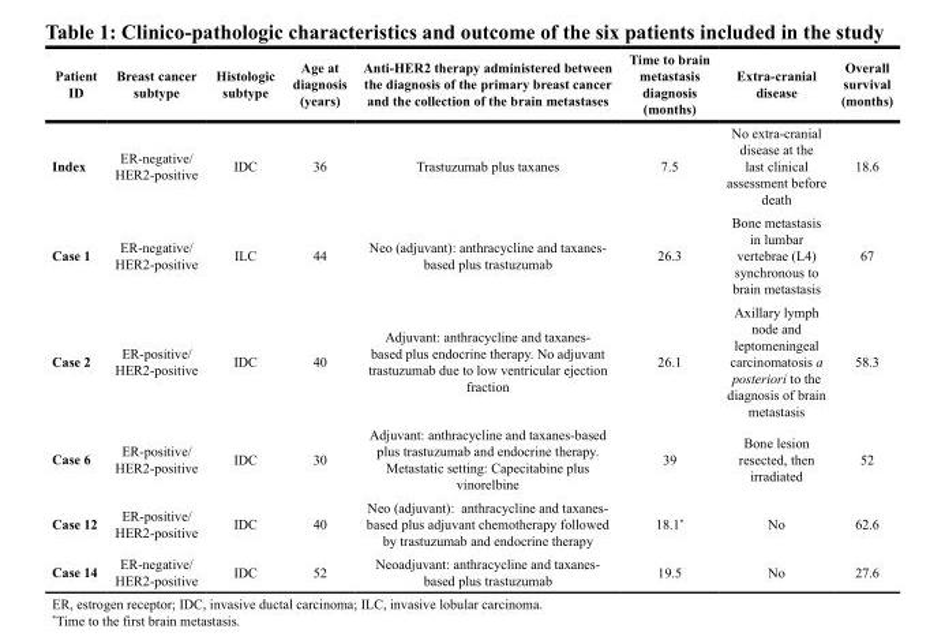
<table><thead><tr><td>Patient ID</td><td>Breast cancer subtype</td><td>Histologic subtype</td><td>Age at diagnosis (years)</td><td>Anti-HER2 therapy administered between the diagnosis of the primary breast cancer and the collection of the brain metastases</td><td>Time to brain metastasis diagnosis (months)</td><td>Extra-cranial disease</td><td>Overall survival (months)</td></tr></thead><tbody><tr><td>Index</td><td>ER-negative/ HER2-positive</td><td>IDC</td><td>36</td><td>Trastuzumab plus taxanes</td><td>7.5</td><td>No extra-cranial disease at the last clinical assessment before death</td><td>18.6</td></tr><tr><td>Case 1</td><td>ER-negative/ HER2-positive</td><td>ILC</td><td>44</td><td>Neo (adjuvant): anthracycline and taxanes- based plus trastuzumab</td><td>26.3</td><td>Bone metastasis in lumbar vertebrae (L4) synchronous to brain metastasis</td><td>67</td></tr><tr><td>Case 2</td><td>ER-positive/ HER2-positive</td><td>IDC</td><td>40</td><td>Adjuvant: anthracycline and taxanes- based plus endocrine therapy. No adjuvant trastuzumab due to low ventricular ejection fraction</td><td>26.1</td><td>Axillary lymph node and leptomeningeal carcinomatosis a posteriori to the diagnosis of brain metastasis</td><td>58.3</td></tr><tr><td>Case 6</td><td>ER-positive/ HER2-positive</td><td>IDC</td><td>30</td><td>Adjuvant: anthracycline and taxanes-based plus trastuzumab and endocrine therapy. Metastatic setting: Capecitabine plus vinorelbine</td><td>39</td><td>Bone lesion resected, then irradiated</td><td>52</td></tr><tr><td>Case 12</td><td>ER-positive/ HER2-positive</td><td>IDC</td><td>40</td><td>Neo (adjuvant): anthracycline and taxanes- based plus adjuvant chemotherapy followed by trastuzumab and endocrine therapy</td><td>18.1*</td><td>No</td><td>62.6</td></tr><tr><td>Case 14</td><td>ER-negative/ HER2-positive</td><td>IDC</td><td>52</td><td>Neoadjuvant: anthracycline and taxanes- based plus trastuzumab</td><td>19.5</td><td>No</td><td>27.6</td></tr></tbody></table>